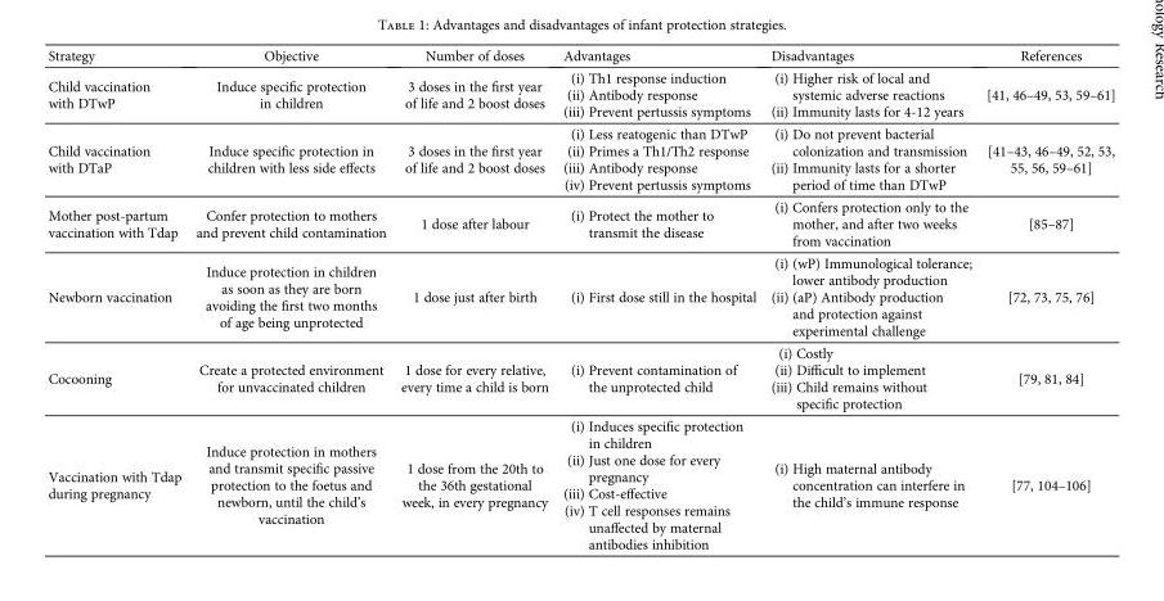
<table><thead><tr><td>Strategy</td><td>Objective</td><td>Number of doses</td><td>Advantages</td><td>Disadvantages</td><td>References</td></tr></thead><tbody><tr><td>Child vaccination with DTwP</td><td>Induce specific protection in children</td><td>3 doses in the first year of life and 2 boost doses</td><td>(i) Th1 response induction (ii) Antibody response (iii) Prevent pertussis symptoms</td><td>(i) Higher risk of local and systemic adverse reactions (ii) Immunity lasts for 4-12 years</td><td>[41, 46–49, 53, 59–61]</td></tr><tr><td>Child vaccination with DTaP</td><td>Induce specific protection in children with less side effects</td><td>3 doses in the first year of life and 2 boost doses</td><td>(i) Less reatogenic than DTwP (ii) Primes a Th1/Th2 response (iii) Antibody response (iv) Prevent pertussis symptoms</td><td>(i) Do not prevent bacterial colonization and transmission (ii) Immunity lasts for a shorter period of time than DTwP</td><td>[41–43, 46–49, 52, 53, 55, 56, 59–61]</td></tr><tr><td>Mother post-partum vaccination with Tdap</td><td>Confer protection to mothers and prevent child contamination</td><td>1 dose after labour</td><td>(i) Protect the mother to transmit the disease</td><td>(i) Confers protection only to the mother, and after two weeks from vaccination</td><td>[85–87]</td></tr><tr><td>Newborn vaccination</td><td>Induce protection in children as soon as they are born avoiding the first two months of age being unprotected</td><td>1 dose just after birth</td><td>(i) First dose still in the hospital</td><td>(i) (wP) Immunological tolerance; lower antibody production (ii) (aP) Antibody production and protection against experimental challenge</td><td>[72, 73, 75, 76]</td></tr><tr><td>Cocooning</td><td>Create a protected environment for unvaccinated children</td><td>1 dose for every relative, every time a child is born</td><td>(i) Prevent contamination of the unprotected child</td><td>(i) Costly (ii) Difficult to implement (iii) Child remains without specific protection</td><td>[79, 81, 84]</td></tr><tr><td>Vaccination with Tdap during pregnancy</td><td>Induce protection in mothers and transmit specific passive protection to the foetus and newborn, until the child’s vaccination</td><td>1 dose from the 20th to the 36th gestational week, in every pregnancy</td><td>(i) Induces specific protection in children (ii) Just one dose for every pregnancy (iii) Cost-effective (iv) T cell responses remains unaffected by maternal antibodies inhibition</td><td>(i) High maternal antibody concentration can interfere in the child’s immune response</td><td>[77, 104–106]</td></tr></tbody></table>